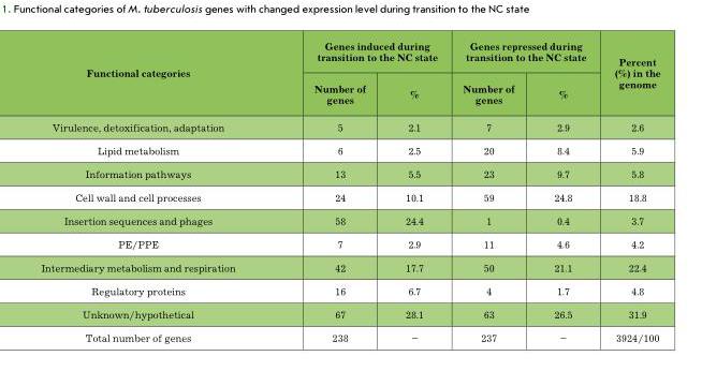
<table><thead><tr><td rowspan="2">Functional categories</td><td colspan="2">Genes induced during transition to the NC state</td><td colspan="2">Genes repressed during transition to the NC state</td><td rowspan="2">Percent (%) in the genome</td></tr><tr><td>Number of genes</td><td>%</td><td>Number of genes</td><td>%</td></tr></thead><tbody><tr><td>Virulence, detoxification, adaptation</td><td>5</td><td>2.1</td><td>7</td><td>2.9</td><td>2.6</td></tr><tr><td>Lipid metabolism</td><td>6</td><td>2.5</td><td>20</td><td>8.4</td><td>5.9</td></tr><tr><td>Information pathways</td><td>13</td><td>5.5</td><td>23</td><td>9.7</td><td>5.8</td></tr><tr><td>cell wall and cell processes</td><td>24</td><td>10.1</td><td>59</td><td>24.8</td><td>18.8</td></tr><tr><td>Insertion sequences and phages</td><td>58</td><td>24.4</td><td>1</td><td>0.4</td><td>3.7</td></tr><tr><td>Pe/PPe</td><td>7</td><td>2.9</td><td>11</td><td>4.6</td><td>4.2</td></tr><tr><td>Intermediary metabolism and respiration</td><td>42</td><td>17.7</td><td>50</td><td>21.1</td><td>22.4</td></tr><tr><td>regulatory proteins</td><td>16</td><td>6.7</td><td>4</td><td>1.7</td><td>4.8</td></tr><tr><td>unknown/hypothetical</td><td>67</td><td>28.1</td><td>63</td><td>26.5</td><td>31.9</td></tr><tr><td>total number of genes</td><td>238</td><td>–</td><td>237</td><td>–</td><td>3924/100</td></tr></tbody></table>